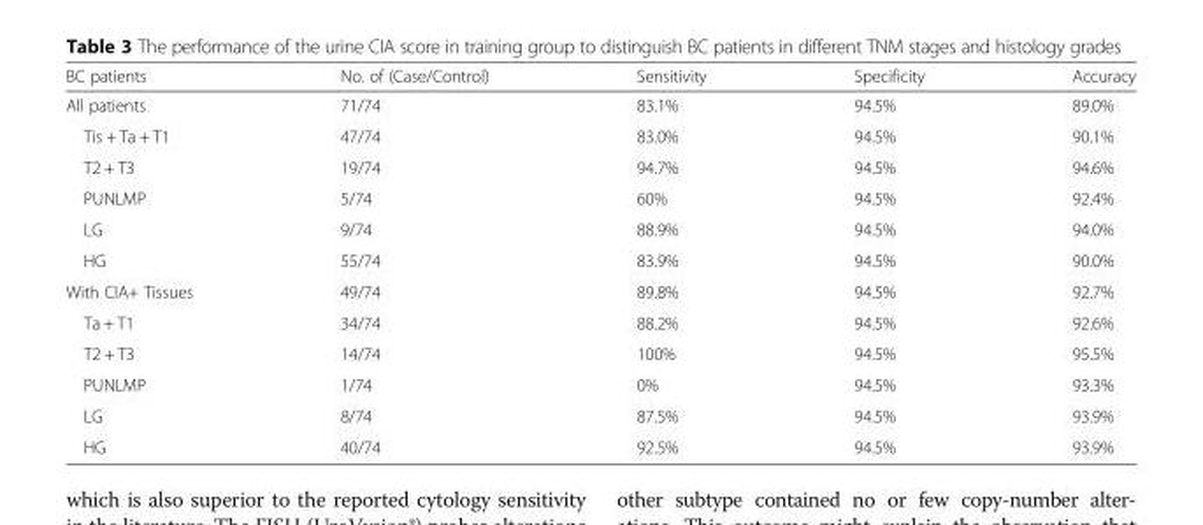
<table><thead><tr><td>BC patients</td><td>No. of (Case/Control)</td><td>Sensitivity</td><td>Specificity</td><td>Accuracy</td></tr></thead><tbody><tr><td>All patients</td><td>71/74</td><td>83.1%</td><td>94.5%</td><td>89.0%</td></tr><tr><td>Tis + Ta + T1</td><td>47/74</td><td>83.0%</td><td>94.5%</td><td>90.1%</td></tr><tr><td>T2 + T3</td><td>19/74</td><td>94.7%</td><td>94.5%</td><td>94.6%</td></tr><tr><td>PUNLMP</td><td>5/74</td><td>60%</td><td>94.5%</td><td>92.4%</td></tr><tr><td>LG</td><td>9/74</td><td>88.9%</td><td>94.5%</td><td>94.0%</td></tr><tr><td>HG</td><td>55/74</td><td>83.9%</td><td>94.5%</td><td>90.0%</td></tr><tr><td>With CIA+ Tissues</td><td>49/74</td><td>89.8%</td><td>94.5%</td><td>92.7%</td></tr><tr><td>Ta + T1</td><td>34/74</td><td>88.2%</td><td>94.5%</td><td>92.6%</td></tr><tr><td>T2 + T3</td><td>14/74</td><td>100%</td><td>94.5%</td><td>95.5%</td></tr><tr><td>PUNLMP</td><td>1/74</td><td>0%</td><td>94.5%</td><td>93.3%</td></tr><tr><td>LG</td><td>8/74</td><td>87.5%</td><td>94.5%</td><td>93.9%</td></tr><tr><td>HG</td><td>40/74</td><td>92.5%</td><td>94.5%</td><td>93.9%</td></tr></tbody></table>